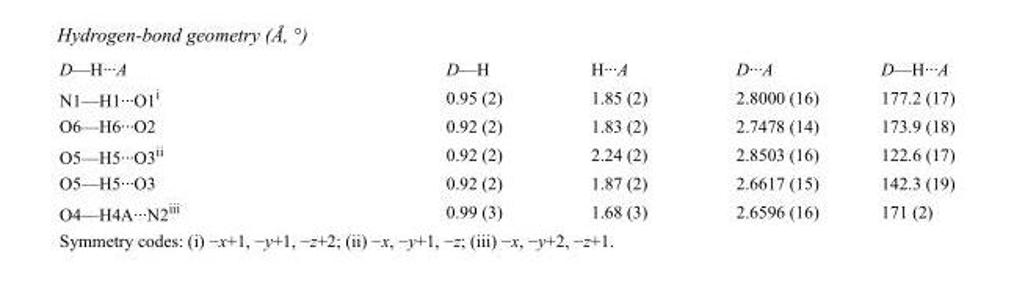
<table><tbody><tr><td>D—H···A</td><td>D—H</td><td>H···A</td><td>D···A</td><td>D—H···A</td></tr><tr><td>N1—H1···O1<sup>i</sup></td><td>0.95 (2)</td><td>1.85 (2)</td><td>2.8000 (16)</td><td>177.2 (17)</td></tr><tr><td>O6—H6···O2</td><td>0.92 (2)</td><td>1.83 (2)</td><td>2.7478 (14)</td><td>173.9 (18)</td></tr><tr><td>O5—H5···O3<sup>ii</sup></td><td>0.92 (2)</td><td>2.24 (2)</td><td>2.8503 (16)</td><td>122.6 (17)</td></tr><tr><td>O5—H5···O3</td><td>0.92 (2)</td><td>1.87 (2)</td><td>2.6617 (15)</td><td>142.3 (19)</td></tr><tr><td>O4—H4A···N2<sup>iii</sup></td><td>0.99 (3)</td><td>1.68 (3)</td><td>2.6596 (16)</td><td>171 (2)</td></tr></tbody></table>